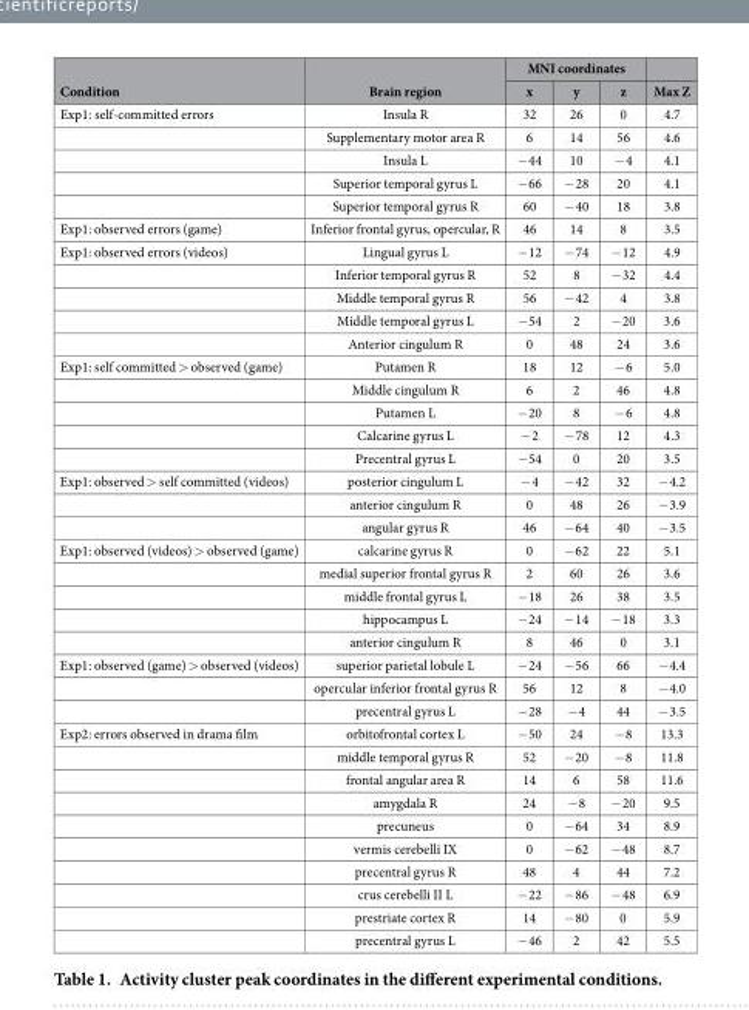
<table><thead><tr><td rowspan="2">Condition</td><td rowspan="2">Brain region</td><td colspan="3">MNI coordinates</td><td rowspan="2">Max Z</td></tr><tr><td>x</td><td>y</td><td>z</td></tr></thead><tbody><tr><td rowspan="5">Exp1: self-committed errors</td><td>Insula R</td><td>32</td><td>26</td><td>0</td><td>4.7</td></tr><tr><td>Supplementary motor area R</td><td>6</td><td>14</td><td>56</td><td>4.6</td></tr><tr><td>Insula L</td><td>− 44</td><td>10</td><td>− 4</td><td>4.1</td></tr><tr><td>Superior temporal gyrus L</td><td>− 66</td><td>− 28</td><td>20</td><td>4.1</td></tr><tr><td>Superior temporal gyrus R</td><td>60</td><td>− 40</td><td>18</td><td>3.8</td></tr><tr><td>Exp1: observed errors (game)</td><td>Inferior frontal gyrus, opercular, R</td><td>46</td><td>14</td><td>8</td><td>3.5</td></tr><tr><td rowspan="5">Exp1: observed errors (videos)</td><td>Lingual gyrus L</td><td>− 12</td><td>− 74</td><td>− 12</td><td>4.9</td></tr><tr><td>Inferior temporal gyrus R</td><td>52</td><td>8</td><td>− 32</td><td>4.4</td></tr><tr><td>Middle temporal gyrus R</td><td>56</td><td>− 42</td><td>4</td><td>3.8</td></tr><tr><td>Middle temporal gyrus L</td><td>− 54</td><td>2</td><td>− 20</td><td>3.6</td></tr><tr><td>Anterior cingulum R</td><td>0</td><td>48</td><td>24</td><td>3.6</td></tr><tr><td rowspan="5">Exp1: self committed &gt; observed (game)</td><td>Putamen R</td><td>18</td><td>12</td><td>− 6</td><td>5.0</td></tr><tr><td>Middle cingulum R</td><td>6</td><td>2</td><td>46</td><td>4.8</td></tr><tr><td>Putamen L</td><td>− 20</td><td>8</td><td>− 6</td><td>4.8</td></tr><tr><td>Calcarine gyrus L</td><td>− 2</td><td>− 78</td><td>12</td><td>4.3</td></tr><tr><td>Precentral gyrus L</td><td>− 54</td><td>0</td><td>20</td><td>3.5</td></tr><tr><td rowspan="3">Exp1: observed &gt; self committed (videos)</td><td>posterior cingulum L</td><td>− 4</td><td>− 42</td><td>32</td><td>− 4.2</td></tr><tr><td>anterior cingulum R</td><td>0</td><td>48</td><td>26</td><td>− 3.9</td></tr><tr><td>angular gyrus R</td><td>46</td><td>− 64</td><td>40</td><td>− 3.5</td></tr><tr><td rowspan="5">Exp1: observed (videos) &gt; observed (game)</td><td>calcarine gyrus R</td><td>0</td><td>− 62</td><td>22</td><td>5.1</td></tr><tr><td>medial superior frontal gyrus R</td><td>2</td><td>60</td><td>26</td><td>3.6</td></tr><tr><td>middle frontal gyrus L</td><td>− 18</td><td>26</td><td>38</td><td>3.5</td></tr><tr><td>hippocampus L</td><td>− 24</td><td>− 14</td><td>− 18</td><td>3.3</td></tr><tr><td>anterior cingulum R</td><td>8</td><td>46</td><td>0</td><td>3.1</td></tr><tr><td rowspan="3">Exp1: observed (game) &gt; observed (videos)</td><td>superior parietal lobule L</td><td>− 24</td><td>− 56</td><td>66</td><td>− 4.4</td></tr><tr><td>opercular inferior frontal gyrus R</td><td>56</td><td>12</td><td>8</td><td>− 4.0</td></tr><tr><td>precentral gyrus L</td><td>− 28</td><td>− 4</td><td>44</td><td>− 3.5</td></tr><tr><td rowspan="10">Exp2: errors observed in drama film</td><td>orbitofrontal cortex L</td><td>− 50</td><td>24</td><td>− 8</td><td>13.3</td></tr><tr><td>middle temporal gyrus R</td><td>52</td><td>− 20</td><td>− 8</td><td>11.8</td></tr><tr><td>frontal angular area R</td><td>14</td><td>6</td><td>58</td><td>11.6</td></tr><tr><td>amygdala R</td><td>24</td><td>− 8</td><td>− 20</td><td>9.5</td></tr><tr><td>precuneus</td><td>0</td><td>− 64</td><td>34</td><td>8.9</td></tr><tr><td>vermis cerebelli IX</td><td>0</td><td>− 62</td><td>− 48</td><td>8.7</td></tr><tr><td>precentral gyrus R</td><td>48</td><td>4</td><td>44</td><td>7.2</td></tr><tr><td>crus cerebelli II L</td><td>− 22</td><td>− 86</td><td>− 48</td><td>6.9</td></tr><tr><td>prestriate cortex R</td><td>14</td><td>− 80</td><td>0</td><td>5.9</td></tr><tr><td>precentral gyrus L</td><td>− 46</td><td>2</td><td>42</td><td>5.5</td></tr></tbody></table>